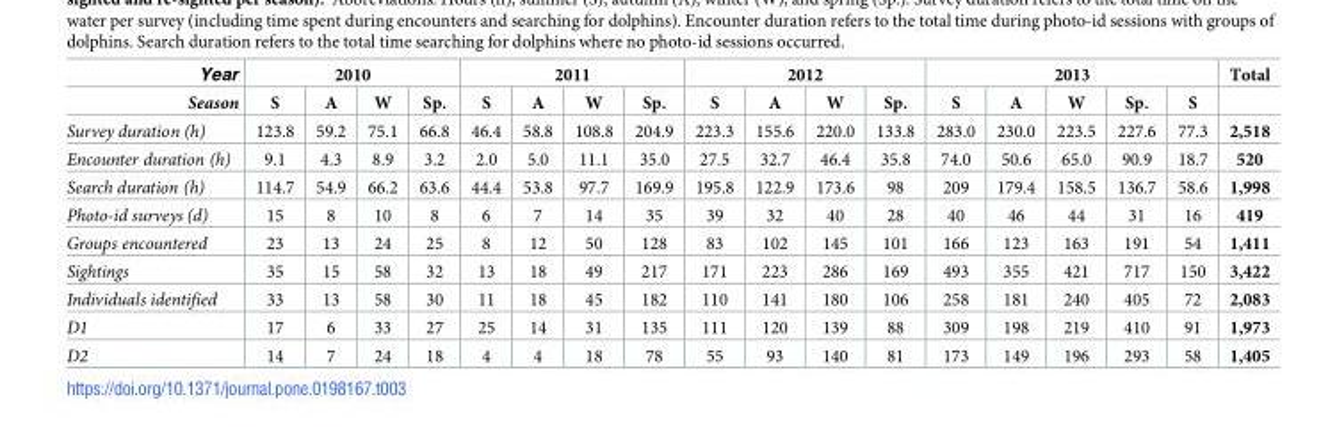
<table><thead><tr><td rowspan="2">Year Season</td><td colspan="4">2010</td><td colspan="4">2011</td><td colspan="4">2012</td><td colspan="5">2013</td><td rowspan="2">Total</td></tr><tr><td>S</td><td>A</td><td>W</td><td>Sp.</td><td>S</td><td>A</td><td>W</td><td>Sp.</td><td>S</td><td>A</td><td>W</td><td>Sp.</td><td>S</td><td>A</td><td>W</td><td>Sp.</td><td>S</td></tr></thead><tbody><tr><td>Survey duration (h)</td><td>123.8</td><td>59.2</td><td>75.1</td><td>66.8</td><td>46.4</td><td>58.8</td><td>108.8</td><td>204.9</td><td>223.3</td><td>155.6</td><td>220.0</td><td>133.8</td><td>283.0</td><td>230.0</td><td>223.5</td><td>227.6</td><td>77.3</td><td>2,518</td></tr><tr><td>Encounter duration (h)</td><td>9.1</td><td>4.3</td><td>8.9</td><td>3.2</td><td>2.0</td><td>5.0</td><td>11.1</td><td>35.0</td><td>27.5</td><td>32.7</td><td>46.4</td><td>35.8</td><td>74.0</td><td>50.6</td><td>65.0</td><td>90.9</td><td>18.7</td><td>520</td></tr><tr><td>Search duration (h)</td><td>114.7</td><td>54.9</td><td>66.2</td><td>63.6</td><td>44.4</td><td>53.8</td><td>97.7</td><td>169.9</td><td>195.8</td><td>122.9</td><td>173.6</td><td>98</td><td>209</td><td>179.4</td><td>158.5</td><td>136.7</td><td>58.6</td><td>1,998</td></tr><tr><td>Photo-id surveys (d)</td><td>15</td><td>8</td><td>10</td><td>8</td><td>6</td><td>7</td><td>14</td><td>35</td><td>39</td><td>32</td><td>40</td><td>28</td><td>40</td><td>46</td><td>44</td><td>31</td><td>16</td><td>419</td></tr><tr><td>Groups encountered</td><td>23</td><td>13</td><td>24</td><td>25</td><td>8</td><td>12</td><td>50</td><td>128</td><td>83</td><td>102</td><td>145</td><td>101</td><td>166</td><td>123</td><td>163</td><td>191</td><td>54</td><td>1,411</td></tr><tr><td>Sightings</td><td>35</td><td>15</td><td>58</td><td>32</td><td>13</td><td>18</td><td>49</td><td>217</td><td>171</td><td>223</td><td>286</td><td>169</td><td>493</td><td>355</td><td>421</td><td>717</td><td>150</td><td>3,422</td></tr><tr><td>Individuals identified</td><td>33</td><td>13</td><td>58</td><td>30</td><td>11</td><td>18</td><td>45</td><td>182</td><td>110</td><td>141</td><td>180</td><td>106</td><td>258</td><td>181</td><td>240</td><td>405</td><td>72</td><td>2,083</td></tr><tr><td>D1</td><td>17</td><td>6</td><td>33</td><td>27</td><td>25</td><td>14</td><td>31</td><td>135</td><td>111</td><td>120</td><td>139</td><td>88</td><td>309</td><td>198</td><td>219</td><td>410</td><td>91</td><td>1,973</td></tr><tr><td>D2</td><td>14</td><td>7</td><td>24</td><td>18</td><td>4</td><td>4</td><td>18</td><td>78</td><td>55</td><td>93</td><td>140</td><td>81</td><td>173</td><td>149</td><td>196</td><td>293</td><td>58</td><td>1,405</td></tr></tbody></table>